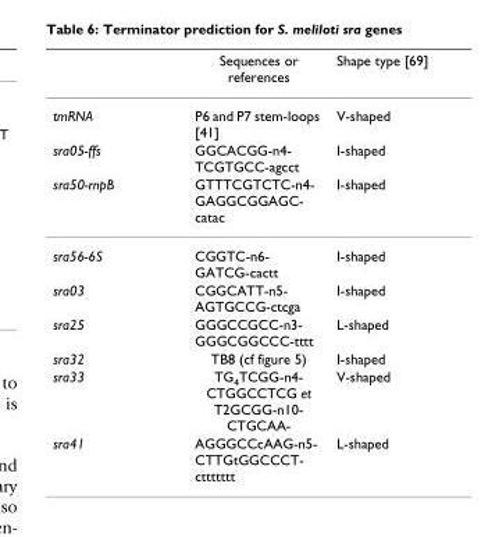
<table><thead><tr><td></td><td>Sequences or references</td><td>Shape type [69]</td></tr></thead><tbody><tr><td>tmRNA</td><td>P6 and P7 stem-loops [41]</td><td>V-shaped</td></tr><tr><td>sra05-ffs</td><td>GGCACGG-n4- TCGTGCC-agcct</td><td>I-shaped</td></tr><tr><td>sra50-rnpB</td><td>GTTTCGTCTC-n4- GAGGCGGAGC- catac</td><td>I-shaped</td></tr><tr><td>sra56-6S</td><td>CGGTC-n6- GATCG-cactt</td><td>I-shaped</td></tr><tr><td>sra03</td><td>CGGCATT-n5- AGTGCCG-ctcga</td><td>I-shaped</td></tr><tr><td>sra25</td><td>GGGCCGCC-n3- GGGCGGCCC-tttt</td><td>L-shaped</td></tr><tr><td>sra32</td><td>TB8 (cf figure 5)</td><td>I-shaped</td></tr><tr><td>sra33</td><td>TG<sub>4</sub>TCGG-n4- CTGGCCTCG et T2GCGG-n10- CTGCAA-</td><td>V-shaped</td></tr><tr><td>sra41</td><td>AGGGCCcAAG-n5- CTTGtGGCCCT- cttttttt</td><td>L-shaped</td></tr></tbody></table>